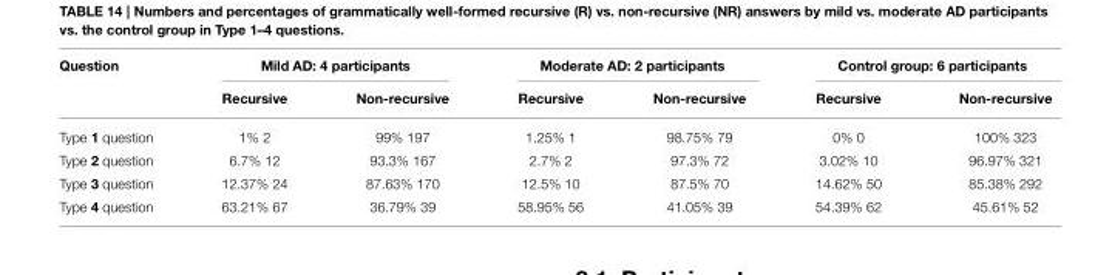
<table><thead><tr><td rowspan="2">Question</td><td colspan="2">Mild AD: 4 participants</td><td colspan="2">Moderate AD: 2 participants</td><td colspan="2">Control group: 6 participants</td></tr><tr><td>Recursive</td><td>Non-recursive</td><td>Recursive</td><td>Non-recursive</td><td>Recursive</td><td>Non-recursive</td></tr></thead><tbody><tr><td>Type 1 question</td><td>1% 2</td><td>99% 197</td><td>1.25% 1</td><td>98.75% 79</td><td>0% 0</td><td>100% 323</td></tr><tr><td>Type 2 question</td><td>6.7% 12</td><td>93.3% 167</td><td>2.7% 2</td><td>97.3% 72</td><td>3.02% 10</td><td>96.97% 321</td></tr><tr><td>Type 3 question</td><td>12.37% 24</td><td>87.63% 170</td><td>12.5% 10</td><td>87.5% 70</td><td>14.62% 50</td><td>85.38% 292</td></tr><tr><td>Type 4 question</td><td>63.21% 67</td><td>36.79% 39</td><td>58.95% 56</td><td>41.05% 39</td><td>54.39% 62</td><td>45.61% 52</td></tr></tbody></table>